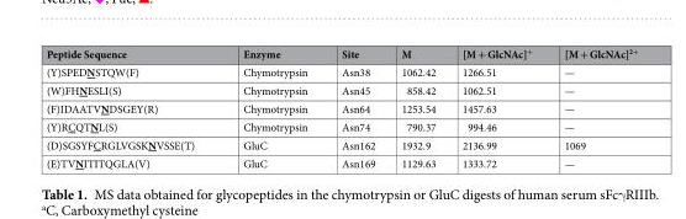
<table><thead><tr><td>Peptide Sequence</td><td>Enzyme</td><td>Site</td><td>M</td><td>[M + GlcNAc]<sup>+</sup></td><td>[M + GlcNAc]<sup>2+</sup></td></tr></thead><tbody><tr><td>(Y)SPEDNSTQW(F)</td><td>Chymotrypsin</td><td>Asn38</td><td>1062.42</td><td>1266.51</td><td>—</td></tr><tr><td>(W)FHNESLI(S)</td><td>Chymotrypsin</td><td>Asn45</td><td>858.42</td><td>1062.51</td><td>—</td></tr><tr><td>(F)IDAATVNDSGEY(R)</td><td>Chymotrypsin</td><td>Asn64</td><td>1253.54</td><td>1457.63</td><td>—</td></tr><tr><td>(Y)RCQTNL(S)</td><td>Chymotrypsin</td><td>Asn74</td><td>790.37</td><td>994.46</td><td>—</td></tr><tr><td>(D)SGSYFCRGLVGSKNVSSE(T)</td><td>GluC</td><td>Asn162</td><td>1932.9</td><td>2136.99</td><td>1069</td></tr><tr><td>(E)TVNITITQGLA(V)</td><td>GluC</td><td>Asn169</td><td>1129.63</td><td>1333.72</td><td>—</td></tr></tbody></table>